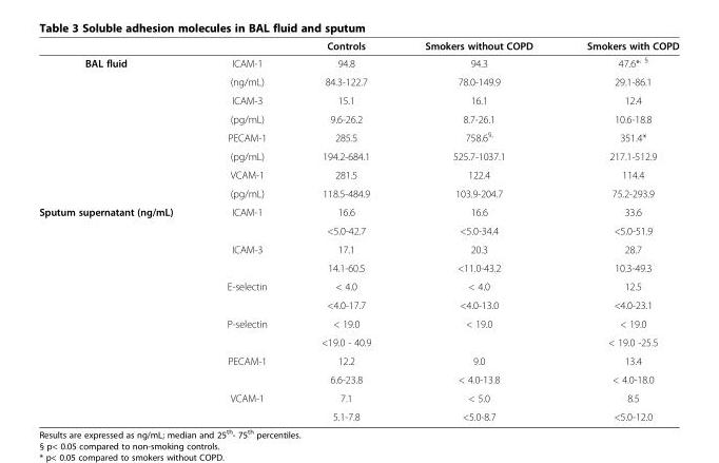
<table><thead><tr><td></td><td></td><td>Controls</td><td>Smokers without COPD</td><td>Smokers with COPD</td></tr></thead><tbody><tr><td rowspan="8">BAL fluid</td><td>ICAM-1</td><td>94.8</td><td>94.3</td><td>47.6*<sup>, §</sup></td></tr><tr><td>(ng/mL)</td><td>84.3-122.7</td><td>78.0-149.9</td><td>29.1-86.1</td></tr><tr><td>ICAM-3</td><td>15.1</td><td>16.1</td><td>12.4</td></tr><tr><td>(pg/mL)</td><td>9.6-26.2</td><td>8.7-26.1</td><td>10.6-18.8</td></tr><tr><td>PECAM-1</td><td>285.5</td><td>758.6<sup>§,</sup></td><td>351.4*</td></tr><tr><td>(pg/mL)</td><td>194.2-684.1</td><td>525.7-1037.1</td><td>217.1-512.9</td></tr><tr><td>VCAM-1</td><td>281.5</td><td>122.4</td><td>114.4</td></tr><tr><td>(pg/mL)</td><td>118.5-484.9</td><td>103.9-204.7</td><td>75.2-293.9</td></tr><tr><td rowspan="12">Sputum supernatant (ng/mL)</td><td rowspan="2">ICAM-1</td><td>16.6</td><td>16.6</td><td>33.6</td></tr><tr><td>&lt;5.0-42.7</td><td>&lt;5.0-34.4</td><td>&lt;5.0-51.9</td></tr><tr><td rowspan="2">ICAM-3</td><td>17.1</td><td>20.3</td><td>28.7</td></tr><tr><td>14.1-60.5</td><td>&lt;11.0-43.2</td><td>10.3-49.3</td></tr><tr><td rowspan="2">E-selectin</td><td>&lt; 4.0</td><td>&lt; 4.0</td><td>12.5</td></tr><tr><td>&lt;4.0-17.7</td><td>&lt;4.0-13.0</td><td>&lt;4.0-23.1</td></tr><tr><td rowspan="2">P-selectin</td><td>&lt; 19.0</td><td rowspan="2">&lt; 19.0</td><td>&lt; 19.0</td></tr><tr><td>&lt;19.0 - 40.9</td><td>&lt; 19.0 -25.5</td></tr><tr><td rowspan="2">PECAM-1</td><td>12.2</td><td>9.0</td><td>13.4</td></tr><tr><td>6.6-23.8</td><td>&lt; 4.0-13.8</td><td>&lt; 4.0-18.0</td></tr><tr><td rowspan="2">VCAM-1</td><td>7.1</td><td>&lt; 5.0</td><td>8.5</td></tr><tr><td>5.1-7.8</td><td>&lt;5.0-8.7</td><td>&lt;5.0-12.0</td></tr></tbody></table>